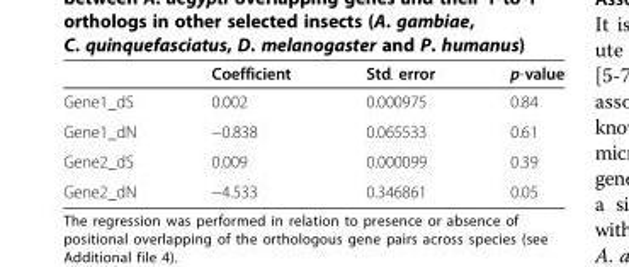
<table><thead><tr><td></td><td>Coefficient</td><td>Std. error</td><td>p-value</td></tr></thead><tbody><tr><td>Gene1_dS</td><td>0.002</td><td>0.000975</td><td>0.84</td></tr><tr><td>Gene1_dN</td><td>−0.838</td><td>0.065533</td><td>0.61</td></tr><tr><td>Gene2_dS</td><td>0.009</td><td>0.000099</td><td>0.39</td></tr><tr><td>Gene2_dN</td><td>−4.533</td><td>0.346861</td><td>0.05</td></tr></tbody></table>